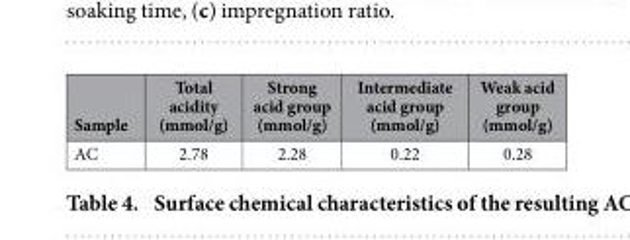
<table><thead><tr><td>Sample</td><td>Total acidity (mmol/g)</td><td>Strong acid group (mmol/g)</td><td>Intermediate acid group (mmol/g)</td><td>Weak acid group (mmol/g)</td></tr></thead><tbody><tr><td>AC</td><td>2.78</td><td>2.28</td><td>0.22</td><td>0.28</td></tr></tbody></table>